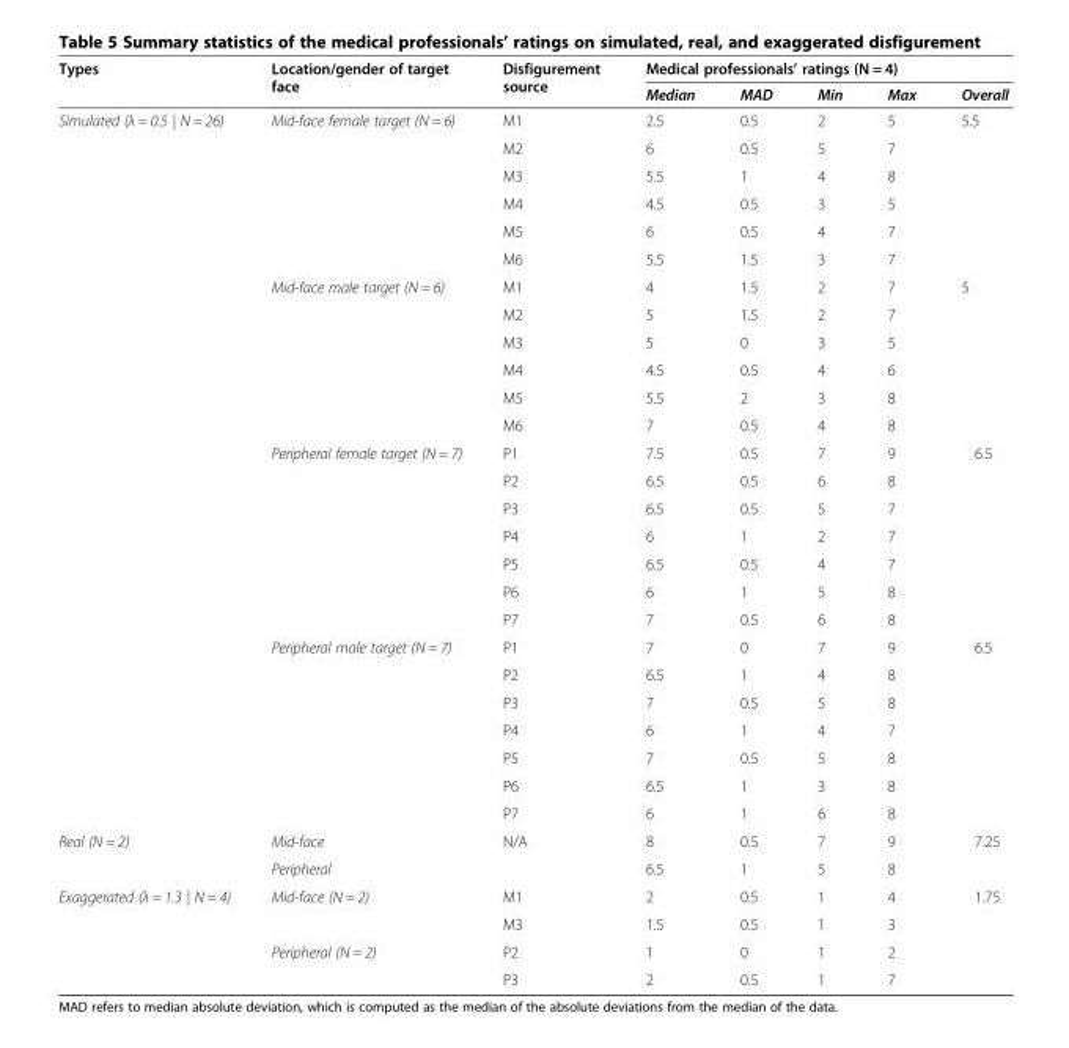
<table><thead><tr><td rowspan="2">Types</td><td rowspan="2">Location/gender of target face</td><td rowspan="2">Disfigurement source</td><td colspan="5">Medical professionals’ ratings (N = 4)</td></tr><tr><td>Median</td><td>MAD</td><td>Min</td><td>Max</td><td>Overall</td></tr></thead><tbody><tr><td rowspan="26">Simulated (λ = 0.5 | N = 26)</td><td rowspan="6">Mid-face female target (N = 6)</td><td>M1</td><td>2.5</td><td>0.5</td><td>2</td><td>5</td><td rowspan="6">5.5</td></tr><tr><td>M2</td><td>6</td><td>0.5</td><td>5</td><td>7</td></tr><tr><td>M3</td><td>5.5</td><td>1</td><td>4</td><td>8</td></tr><tr><td>M4</td><td>4.5</td><td>0.5</td><td>3</td><td>5</td></tr><tr><td>M5</td><td>6</td><td>0.5</td><td>4</td><td>7</td></tr><tr><td>M6</td><td>5.5</td><td>1.5</td><td>3</td><td>7</td></tr><tr><td rowspan="6">Mid-face male target (N = 6)</td><td>M1</td><td>4</td><td>1.5</td><td>2</td><td>7</td><td rowspan="6">5</td></tr><tr><td>M2</td><td>5</td><td>1.5</td><td>2</td><td>7</td></tr><tr><td>M3</td><td>5</td><td>0</td><td>3</td><td>5</td></tr><tr><td>M4</td><td>4.5</td><td>0.5</td><td>4</td><td>6</td></tr><tr><td>M5</td><td>5.5</td><td>2</td><td>3</td><td>8</td></tr><tr><td>M6</td><td>7</td><td>0.5</td><td>4</td><td>8</td></tr><tr><td rowspan="7">Peripheral female target (N = 7)</td><td>P1</td><td>7.5</td><td>0.5</td><td>7</td><td>9</td><td rowspan="7">6.5</td></tr><tr><td>P2</td><td>6.5</td><td>0.5</td><td>6</td><td>8</td></tr><tr><td>P3</td><td>6.5</td><td>0.5</td><td>5</td><td>7</td></tr><tr><td>P4</td><td>6</td><td>1</td><td>2</td><td>7</td></tr><tr><td>P5</td><td>6.5</td><td>0.5</td><td>4</td><td>7</td></tr><tr><td>P6</td><td>6</td><td>1</td><td>5</td><td>8</td></tr><tr><td>P7</td><td>7</td><td>0.5</td><td>6</td><td>8</td></tr><tr><td rowspan="7">Peripheral male target (N = 7)</td><td>P1</td><td>7</td><td>0</td><td>7</td><td>9</td><td rowspan="7">6.5</td></tr><tr><td>P2</td><td>6.5</td><td>1</td><td>4</td><td>8</td></tr><tr><td>P3</td><td>7</td><td>0.5</td><td>5</td><td>8</td></tr><tr><td>P4</td><td>6</td><td>1</td><td>4</td><td>7</td></tr><tr><td>P5</td><td>7</td><td>0.5</td><td>5</td><td>8</td></tr><tr><td>P6</td><td>6.5</td><td>1</td><td>3</td><td>8</td></tr><tr><td>P7</td><td>6</td><td>1</td><td>6</td><td>8</td></tr><tr><td rowspan="2">Real (N = 2)</td><td>Mid-face</td><td rowspan="2">N/A</td><td>8</td><td>0.5</td><td>7</td><td>9</td><td rowspan="2">7.25</td></tr><tr><td>Peripheral</td><td>6.5</td><td>1</td><td>5</td><td>8</td></tr><tr><td rowspan="4">Exaggerated (λ = 1.3 | N = 4)</td><td rowspan="2">Mid-face (N = 2)</td><td>M1</td><td>2</td><td>0.5</td><td>1</td><td>4</td><td rowspan="4">1.75</td></tr><tr><td>M3</td><td>1.5</td><td>0.5</td><td>1</td><td>3</td></tr><tr><td rowspan="2">Peripheral (N = 2)</td><td>P2</td><td>1</td><td>0</td><td>1</td><td>2</td></tr><tr><td>P3</td><td>2</td><td>0.5</td><td>1</td><td>7</td></tr></tbody></table>